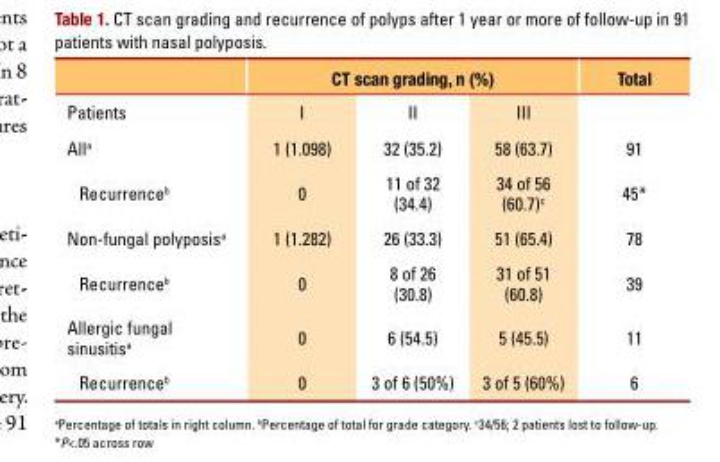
<table><thead><tr><td rowspan="2">Patients</td><td colspan="3">CT scan grading, n (%)</td><td rowspan="2">Total</td></tr><tr><td>I</td><td>II</td><td>III</td></tr></thead><tbody><tr><td>All<sup>a</sup></td><td>1 (1.098)</td><td>32 (35.2)</td><td>58 (63.7)</td><td>91</td></tr><tr><td>Recurrence<sup>b</sup></td><td>0</td><td>11 of 32 (34.4)</td><td>34 of 56 (60.7)<sup>c</sup></td><td>45*</td></tr><tr><td>Non-fungal polyposis<sup>a</sup></td><td>1 (1.282)</td><td>26 (33.3)</td><td>51 (65.4)</td><td>78</td></tr><tr><td>Recurrence<sup>b</sup></td><td>0</td><td>8 of 26 (30.8)</td><td>31 of 51 (60.8)</td><td>39</td></tr><tr><td>Allergic fungal sinusitis<sup>a</sup></td><td>0</td><td>6 (54.5)</td><td>5 (45.5)</td><td>11</td></tr><tr><td>Recurrence<sup>b</sup></td><td>0</td><td>3 of 6 (50%)</td><td>3 of 5 (60%)</td><td>6</td></tr></tbody></table>